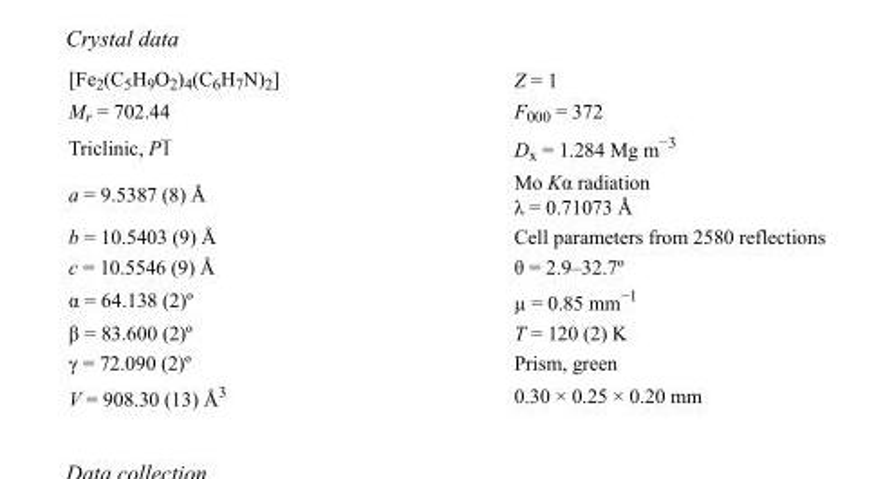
<table><tbody><tr><td>[Fe<sub>2</sub>(C<sub>5</sub>H<sub>9</sub>O<sub>2</sub>)<sub>4</sub>(C<sub>6</sub>H<sub>7</sub>N)<sub>2</sub>]</td><td>Z = 1</td></tr><tr><td>M<sub>r</sub> = 702.44</td><td>F<sub>000</sub> = 372</td></tr><tr><td>Triclinic, P1</td><td>D<sub>x</sub> = 1.284 Mg m<sup>−3</sup></td></tr><tr><td>a = 9.5387 (8) Å</td><td>Mo Kα radiation λ = 0.71073 Å</td></tr><tr><td>b = 10.5403 (9) Å</td><td>Cell parameters from 2580 reflections</td></tr><tr><td>c = 10.5546 (9) Å</td><td>θ = 2.9–32.7º</td></tr><tr><td>α = 64.138 (2)º</td><td>µ = 0.85 mm<sup>−1</sup></td></tr><tr><td>β = 83.600 (2)º</td><td>T = 120 (2) K</td></tr><tr><td>γ = 72.090 (2)º</td><td>Prism, green</td></tr><tr><td>V = 908.30 (13) Å<sup>3</sup></td><td>0.30 × 0.25 × 0.20 mm</td></tr></tbody></table>